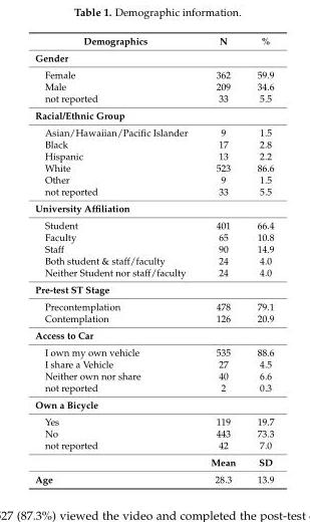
<table><thead><tr><td>Demographics</td><td>N</td><td>%</td></tr></thead><tbody><tr><td colspan="3">Gender</td></tr><tr><td>Female</td><td>362</td><td>59.9</td></tr><tr><td>Male</td><td>209</td><td>34.6</td></tr><tr><td>not reported</td><td>33</td><td>5.5</td></tr><tr><td colspan="3">Racial/Ethnic Group</td></tr><tr><td>Asian/Hawaiian/Pacific Islander</td><td>9</td><td>1.5</td></tr><tr><td>Black</td><td>17</td><td>2.8</td></tr><tr><td>Hispanic</td><td>13</td><td>2.2</td></tr><tr><td>White</td><td>523</td><td>86.6</td></tr><tr><td>Other</td><td>9</td><td>1.5</td></tr><tr><td>not reported</td><td>33</td><td>5.5</td></tr><tr><td colspan="3">University Affiliation</td></tr><tr><td>Student</td><td>401</td><td>66.4</td></tr><tr><td>Faculty</td><td>65</td><td>10.8</td></tr><tr><td>Staff</td><td>90</td><td>14.9</td></tr><tr><td>Both student &amp; staff/faculty</td><td>24</td><td>4.0</td></tr><tr><td>Neither Student nor staff/faculty</td><td>24</td><td>4.0</td></tr><tr><td colspan="3">Pre-test ST Stage</td></tr><tr><td>Precontemplation</td><td>478</td><td>79.1</td></tr><tr><td>Contemplation</td><td>126</td><td>20.9</td></tr><tr><td colspan="3">Access to Car</td></tr><tr><td>I own my own vehicle</td><td>535</td><td>88.6</td></tr><tr><td>I share a Vehicle</td><td>27</td><td>4.5</td></tr><tr><td>Neither own nor share</td><td>40</td><td>6.6</td></tr><tr><td>not reported</td><td>2</td><td>0.3</td></tr><tr><td colspan="3">Own a Bicycle</td></tr><tr><td>Yes</td><td>119</td><td>19.7</td></tr><tr><td>No</td><td>443</td><td>73.3</td></tr><tr><td rowspan="2">not reported</td><td>42</td><td>7.0</td></tr><tr><td>Mean</td><td>SD</td></tr><tr><td>Age</td><td>28.3</td><td>13.9</td></tr></tbody></table>